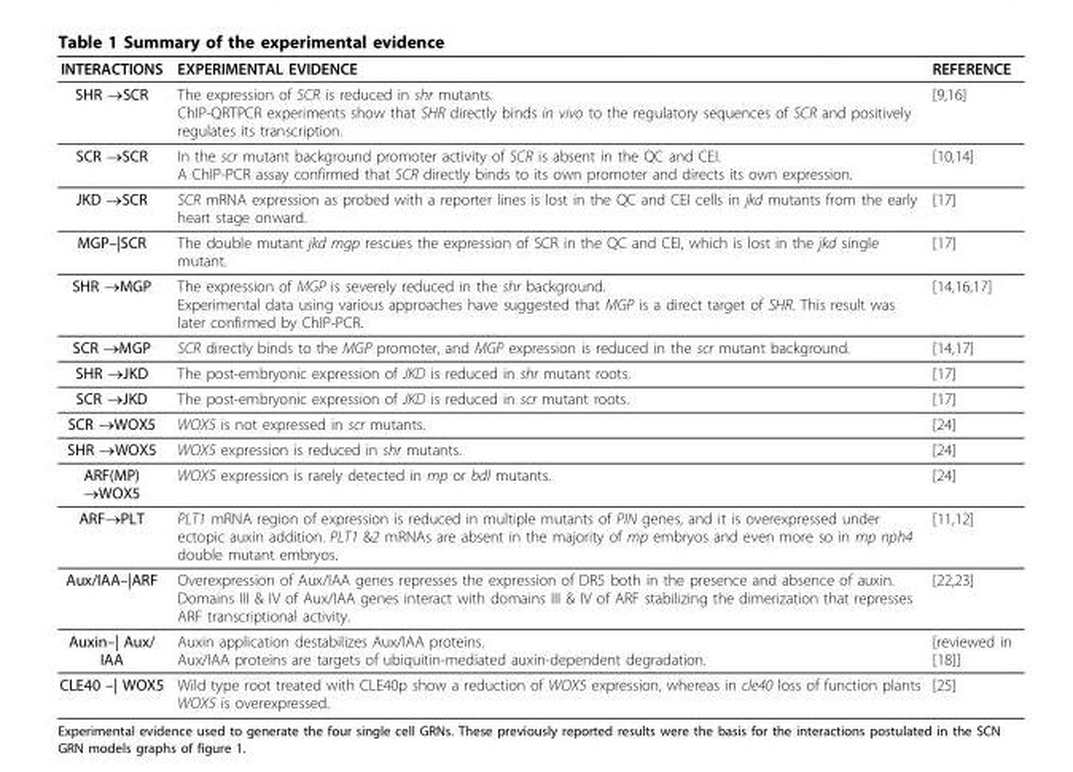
<table><thead><tr><td>INTERACTIONS</td><td>EXPERIMENTAL EVIDENCE</td><td>REFERENCE</td></tr></thead><tbody><tr><td>SHR →SCR</td><td>The expression of SCR is reduced in shr mutants. ChIP-QRTPCR experiments show that SHR directly binds in vivo to the regulatory sequences of SCR and positively regulates its transcription.</td><td>[9,16]</td></tr><tr><td>SCR →SCR</td><td>In the scr mutant background promoter activity of SCR is absent in the QC and CEI. A ChIP-PCR assay confirmed that SCR directly binds to its own promoter and directs its own expression.</td><td>[10,14]</td></tr><tr><td>JKD →SCR</td><td>SCR mRNA expression as probed with a reporter lines is lost in the QC and CEI cells in jkd mutants from the early heart stage onward.</td><td>[17]</td></tr><tr><td>MGP–|SCR</td><td>The double mutant jkd mgp rescues the expression of SCR in the QC and CEI, which is lost in the jkd single mutant.</td><td>[17]</td></tr><tr><td>SHR →MGP</td><td>The expression of MGP is severely reduced in the shr background. Experimental data using various approaches have suggested that MGP is a direct target of SHR. This result was later confirmed by ChIP-PCR.</td><td>[14,16,17]</td></tr><tr><td>SCR →MGP</td><td>SCR directly binds to the MGP promoter, and MGP expression is reduced in the scr mutant background.</td><td>[14,17]</td></tr><tr><td>SHR →JKD</td><td>The post-embryonic expression of JKD is reduced in shr mutant roots.</td><td>[17]</td></tr><tr><td>SCR →JKD</td><td>The post-embryonic expression of JKD is reduced in scr mutant roots.</td><td>[17]</td></tr><tr><td>SCR →WOX5</td><td>WOX5 is not expressed in scr mutants.</td><td>[24]</td></tr><tr><td>SHR →WOX5</td><td>WOX5 expression is reduced in shr mutants.</td><td>[24]</td></tr><tr><td>ARF(MP) →WOX5</td><td>WOX5 expression is rarely detected in mp or bdl mutants.</td><td>[24]</td></tr><tr><td>ARF→PLT</td><td>PLT1 mRNA region of expression is reduced in multiple mutants of PIN genes, and it is overexpressed under ectopic auxin addition. PLT1 &amp;2 mRNAs are absent in the majority of mp embryos and even more so in mp nph4 double mutant embryos.</td><td>[11,12]</td></tr><tr><td>Aux/IAA–|ARF</td><td>Overexpression of Aux/IAA genes represses the expression of DR5 both in the presence and absence of auxin. Domains III &amp; IV of Aux/IAA genes interact with domains III &amp; IV of ARF stabilizing the dimerization that represses ARF transcriptional activity.</td><td>[22,23]</td></tr><tr><td>Auxin–| Aux/ IAA</td><td>Auxin application destabilizes Aux/IAA proteins. Aux/IAA proteins are targets of ubiquitin-mediated auxin-dependent degradation.</td><td>[reviewed in [18]]</td></tr><tr><td>CLE40 –| WOX5</td><td>Wild type root treated with CLE40p show a reduction of WOX5 expression, whereas in cle40 loss of function plants WOX5 is overexpressed.</td><td>[25]</td></tr></tbody></table>